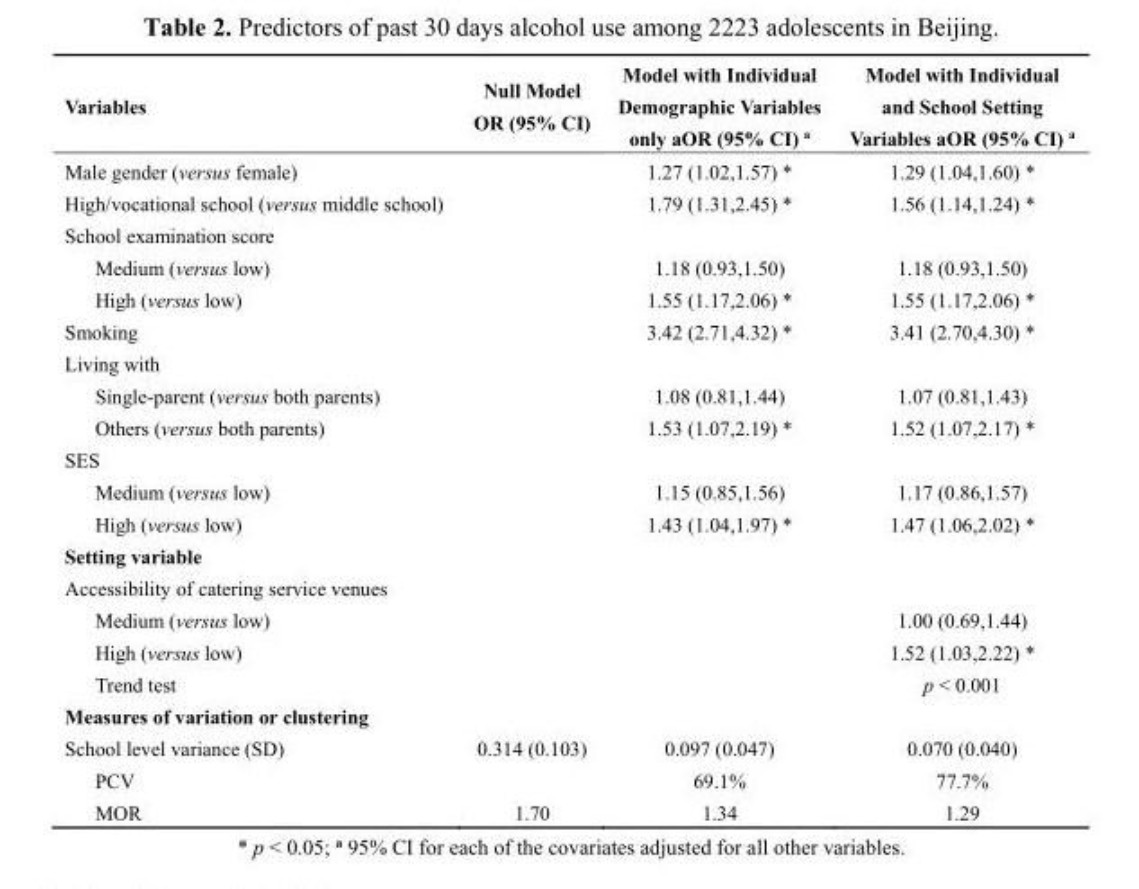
<table><thead><tr><td>Variables</td><td>Null Model OR (95% CI)</td><td>Model with Individual Demographic Variables only aOR (95% CI) <sup>a</sup></td><td>Model with Individual and School Setting Variables aOR (95% CI) <sup>a</sup></td></tr></thead><tbody><tr><td>Male gender (versus female)</td><td></td><td>1.27 (1.02,1.57) *</td><td>1.29 (1.04,1.60) *</td></tr><tr><td>High/vocational school (versus middle school)</td><td></td><td>1.79 (1.31,2.45) *</td><td>1.56 (1.14,1.24) *</td></tr><tr><td colspan="4">School examination score</td></tr><tr><td>Medium (versus low)</td><td></td><td>1.18 (0.93,1.50)</td><td>1.18 (0.93,1.50)</td></tr><tr><td>High (versus low)</td><td></td><td>1.55 (1.17,2.06) *</td><td>1.55 (1.17,2.06) *</td></tr><tr><td>Smoking</td><td></td><td>3.42 (2.71,4.32) *</td><td>3.41 (2.70,4.30) *</td></tr><tr><td colspan="4">Living with</td></tr><tr><td>Single-parent (versus both parents)</td><td></td><td>1.08 (0.81,1.44)</td><td>1.07 (0.81,1.43)</td></tr><tr><td>Others (versus both parents)</td><td></td><td>1.53 (1.07,2.19) *</td><td>1.52 (1.07,2.17) *</td></tr><tr><td colspan="4">SES</td></tr><tr><td>Medium (versus low)</td><td></td><td>1.15 (0.85,1.56)</td><td>1.17 (0.86,1.57)</td></tr><tr><td>High (versus low)</td><td></td><td>1.43 (1.04,1.97) *</td><td>1.47 (1.06,2.02) *</td></tr><tr><td colspan="4">Setting variable</td></tr><tr><td colspan="4">Accessibility of catering service venues</td></tr><tr><td>Medium (versus low)</td><td></td><td></td><td>1.00 (0.69,1.44)</td></tr><tr><td>High (versus low)</td><td></td><td></td><td>1.52 (1.03,2.22) *</td></tr><tr><td>Trend test</td><td></td><td></td><td>p &lt; 0.001</td></tr><tr><td colspan="4">Measures of variation or clustering</td></tr><tr><td>School level variance (SD)</td><td>0.314 (0.103)</td><td>0.097 (0.047)</td><td>0.070 (0.040)</td></tr><tr><td>PCV</td><td></td><td>69.1%</td><td>77.7%</td></tr><tr><td>MOR</td><td>1.70</td><td>1.34</td><td>1.29</td></tr></tbody></table>